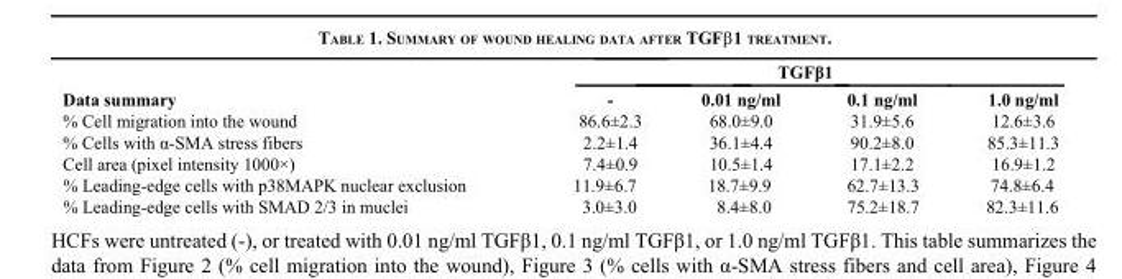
<table><thead><tr><td rowspan="2">Data summary</td><td colspan="4">TGFβ1</td></tr><tr><td>-</td><td>0.01 ng/ml</td><td>0.1 ng/ml</td><td>1.0 ng/ml</td></tr></thead><tbody><tr><td>% Cell migration into the wound</td><td>86.6±2.3</td><td>68.0±9.0</td><td>31.9±5.6</td><td>12.6±3.6</td></tr><tr><td>% Cells with α-SMA stress fibers</td><td>2.2±1.4</td><td>36.1±4.4</td><td>90.2±8.0</td><td>85.3±11.3</td></tr><tr><td>Cell area (pixel intensity 1000×)</td><td>7.4±0.9</td><td>10.5±1.4</td><td>17.1±2.2</td><td>16.9±1.2</td></tr><tr><td>% Leading-edge cells with p38MAPK nuclear exclusion</td><td>11.9±6.7</td><td>18.7±9.9</td><td>62.7±13.3</td><td>74.8±6.4</td></tr><tr><td>% Leading-edge cells with SMAD 2/3 in muclei</td><td>3.0±3.0</td><td>8.4±8.0</td><td>75.2±18.7</td><td>82.3±11.6</td></tr></tbody></table>